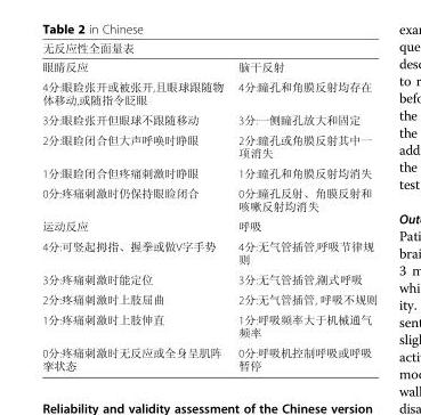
<table><thead><tr><td colspan="2">无反应性全面量表</td></tr><tr><td>眼睛反应</td><td>脑干反射</td></tr></thead><tbody><tr><td>4分:眼睑张开或被张开,且眼球跟随物 体移动,或随指令眨眼</td><td>4分:瞳孔和角膜反射均存在</td></tr><tr><td>3分:眼睑张开但眼球不跟随移动</td><td>3分:一侧瞳孔放大和固定</td></tr><tr><td>2分:眼睑闭合但大声呼唤时睁眼</td><td>2分:瞳孔或角膜反射其中一 项消失</td></tr><tr><td>1分:眼睑闭合但疼痛刺激时睁眼</td><td>1分:瞳孔和角膜反射均消失</td></tr><tr><td>0分:疼痛刺激时仍保持眼睑闭合</td><td>0分:瞳孔反射、角膜反射和 咳嗽反射均消失</td></tr><tr><td>运动反应</td><td>呼吸</td></tr><tr><td>4分:可竖起拇指、握拳或做V字手势</td><td>4分:无气管插管,呼吸节律规 则</td></tr><tr><td>3分:疼痛刺激时能定位</td><td>3分:无气管插管,潮式呼吸</td></tr><tr><td>2分:疼痛刺激时上肢屈曲</td><td>2分:无气管插管, 呼吸不规则</td></tr><tr><td>1分:疼痛刺激时上肢伸直</td><td>1分:呼吸频率大于机械通气 频率</td></tr><tr><td>0分:疼痛刺激时无反应或全身呈肌阵 挛状态</td><td>0分:呼吸机控制呼吸或呼吸 暂停</td></tr></tbody></table>